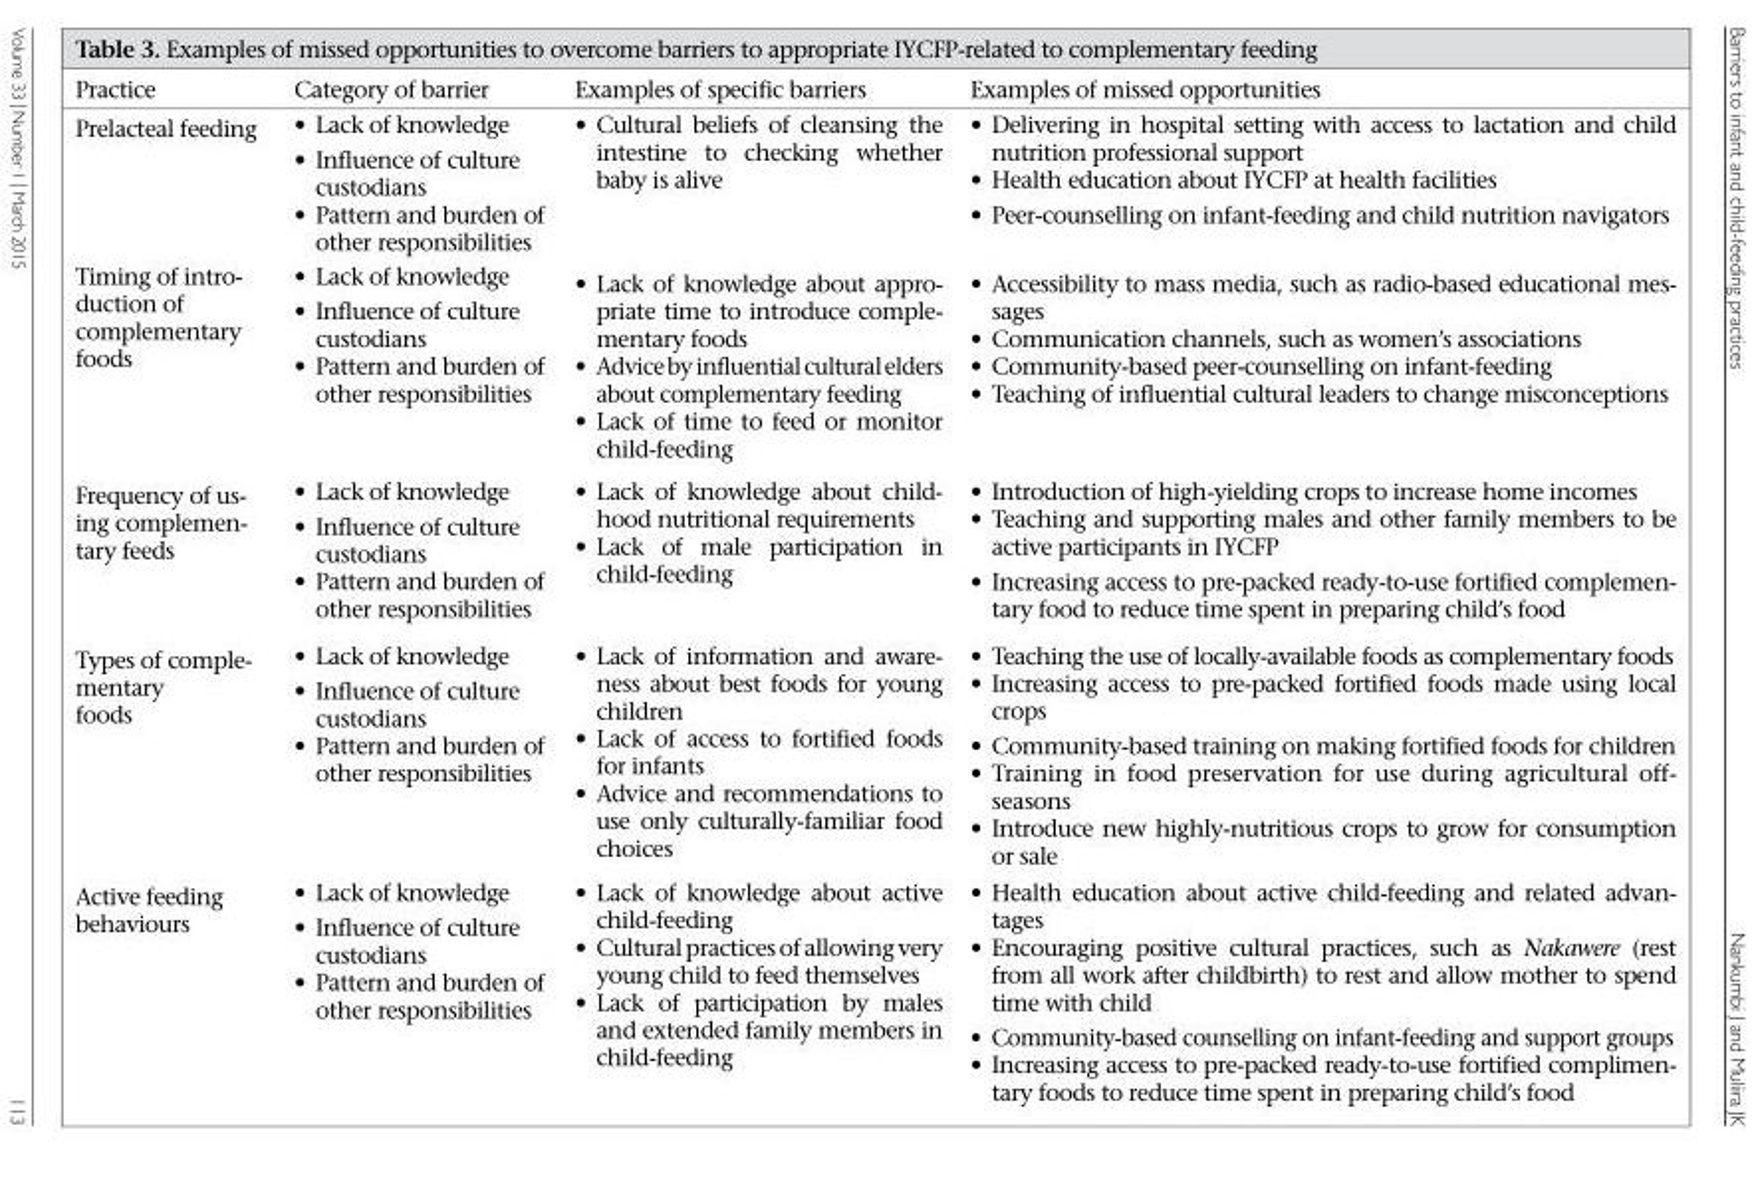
<table><thead><tr><td>Practice</td><td>Category of barrier</td><td>Examples of specific barriers</td><td>Examples of missed opportunities</td></tr></thead><tbody><tr><td>Prelacteal feeding</td><td>Lack of knowledge • Influence of culture • custodians Pattern and burden of • other responsibilities</td><td>Cultural beliefs of cleansing the • intestine to checking whether baby is alive</td><td>Delivering in hospital setting with access to lactation and child • nutrition professional support Health education about IYCFP at health facilities • Peer-counselling on infant-feeding and child nutrition navigators •</td></tr><tr><td>Timing of intro- duction of complementary foods</td><td>Lack of knowledge • Influence of culture • custodians Pattern and burden of • other responsibilities</td><td>Lack of knowledge about appro- • priate time to introduce comple- mentary foods Advice by influential cultural elders • about complementary feeding Lack of time to feed or monitor • child-feeding</td><td>Accessibility to mass media, such as radio-based educational mes- • sages Communication channels, such as women’s associations • Community-based peer-counselling on infant-feeding • Teaching of influential cultural leaders to change misconceptions •</td></tr><tr><td>Frequency of us- ing complemen- tary feeds</td><td>Lack of knowledge • Influence of culture • custodians Pattern and burden of • other responsibilities</td><td>Lack of knowledge about child- • hood nutritional requirements Lack of male participation in • child-feeding</td><td>Introduction of high-yielding crops to increase home incomes • Teaching and supporting males and other family members to be • active participants in IYCFP Increasing access to pre-packed ready-to-use fortified complemen- • tary food to reduce time spent in preparing child’s food</td></tr><tr><td>Types of comple- mentary foods</td><td>Lack of knowledge • Influence of culture • custodians Pattern and burden of • other responsibilities</td><td>Lack of information and aware- • ness about best foods for young children Lack of access to fortified foods • for infants Advice and recommendations to • use only culturally-familiar food choices</td><td>Teaching the use of locally-available foods as complementary foods • Increasing access to pre-packed fortified foods made using local • crops Community-based training on making fortified foods for children • Training in food preservation for use during agricultural off- • seasons Introduce new highly-nutritious crops to grow for consumption • or sale</td></tr><tr><td>Active feeding behaviours</td><td>Lack of knowledge • Influence of culture • custodians Pattern and burden of • other responsibilities</td><td>Lack of knowledge about active • child-feeding Cultural practices of allowing very • young child to feed themselves Lack of participation by males • and extended family members in child-feeding</td><td>Health education about active child-feeding and related advan- • tages Encouraging positive cultural practices, such as • Nakawere (rest from all work after childbirth) to rest and allow mother to spend time with child Community-based counselling on infant-feeding and support groups • Increasing access to pre-packed ready-to-use fortified complimen- • tary foods to reduce time spent in preparing child’s food</td></tr></tbody></table>